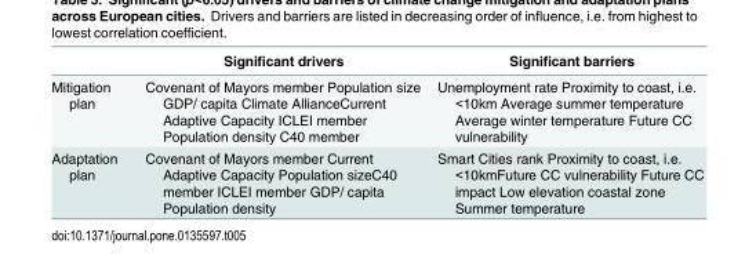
<table><thead><tr><td></td><td>Significant drivers</td><td>Significant barriers</td></tr></thead><tbody><tr><td>Mitigation plan</td><td>Covenant of Mayors member Population size GDP/ capita Climate AllianceCurrent Adaptive Capacity ICLEI member Population density C40 member</td><td>Unemployment rate Proximity to coast, i.e. &lt;10km Average summer temperature Average winter temperature Future CC vulnerability</td></tr><tr><td>Adaptation plan</td><td>Covenant of Mayors member Current Adaptive Capacity Population sizeC40 member ICLEI member GDP/ capita Population density</td><td>Smart Cities rank Proximity to coast, i.e. &lt;10kmFuture CC vulnerability Future CC impact Low elevation coastal zone Summer temperature</td></tr></tbody></table>